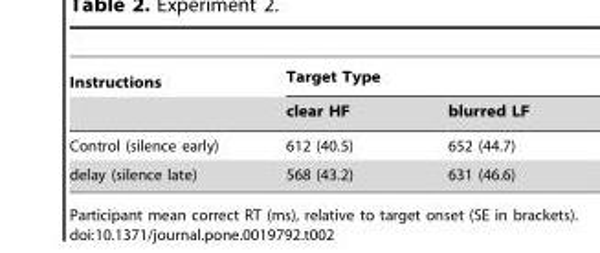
<table><thead><tr><td rowspan="2">Instructions</td><td colspan="2">Target Type</td></tr><tr><td>clear HF</td><td>blurred LF</td></tr></thead><tbody><tr><td>Control (silence early)</td><td>612 (40.5)</td><td>652 (44.7)</td></tr><tr><td>delay (silence late)</td><td>568 (43.2)</td><td>631 (46.6)</td></tr></tbody></table>